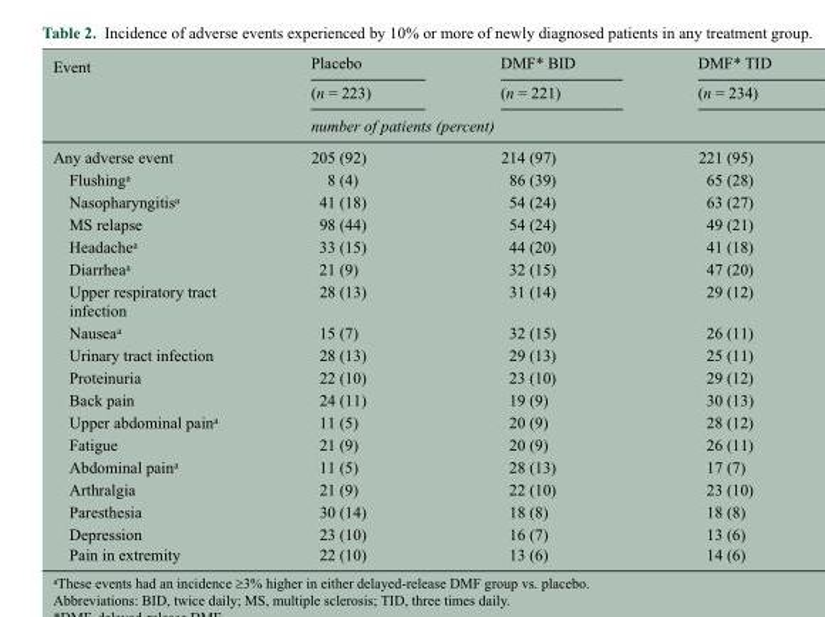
<table><thead><tr><td rowspan="3">Event</td><td rowspan="2">Placebo (n = 223)</td><td rowspan="2">DMF* BID (n = 221)</td><td rowspan="2">DMF* TID (n = 234)</td></tr><tr></tr><tr><td colspan="3">number of patients (percent)</td></tr></thead><tbody><tr><td>Any adverse event</td><td>205 (92)</td><td>214 (97)</td><td>221 (95)</td></tr><tr><td>Flushing<sup>a</sup></td><td>8 (4)</td><td>86 (39)</td><td>65 (28)</td></tr><tr><td>Nasopharyngitis<sup>a</sup></td><td>41 (18)</td><td>54 (24)</td><td>63 (27)</td></tr><tr><td>MS relapse</td><td>98 (44)</td><td>54 (24)</td><td>49 (21)</td></tr><tr><td>Headache<sup>a</sup></td><td>33 (15)</td><td>44 (20)</td><td>41 (18)</td></tr><tr><td>Diarrhea<sup>a</sup></td><td>21 (9)</td><td>32 (15)</td><td>47 (20)</td></tr><tr><td>Upper respiratory tract infection</td><td>28 (13)</td><td>31 (14)</td><td>29 (12)</td></tr><tr><td>Nausea<sup>a</sup></td><td>15 (7)</td><td>32 (15)</td><td>26 (11)</td></tr><tr><td>Urinary tract infection</td><td>28 (13)</td><td>29 (13)</td><td>25 (11)</td></tr><tr><td>Proteinuria</td><td>22 (10)</td><td>23 (10)</td><td>29 (12)</td></tr><tr><td>Back pain</td><td>24 (11)</td><td>19 (9)</td><td>30 (13)</td></tr><tr><td>Upper abdominal pain<sup>a</sup></td><td>11 (5)</td><td>20 (9)</td><td>28 (12)</td></tr><tr><td>Fatigue</td><td>21 (9)</td><td>20 (9)</td><td>26 (11)</td></tr><tr><td>Abdominal pain<sup>a</sup></td><td>11 (5)</td><td>28 (13)</td><td>17 (7)</td></tr><tr><td>Arthralgia</td><td>21 (9)</td><td>22 (10)</td><td>23 (10)</td></tr><tr><td>Paresthesia</td><td>30 (14)</td><td>18 (8)</td><td>18 (8)</td></tr><tr><td>Depression</td><td>23 (10)</td><td>16 (7)</td><td>13 (6)</td></tr><tr><td>Pain in extremity</td><td>22 (10)</td><td>13 (6)</td><td>14 (6)</td></tr></tbody></table>